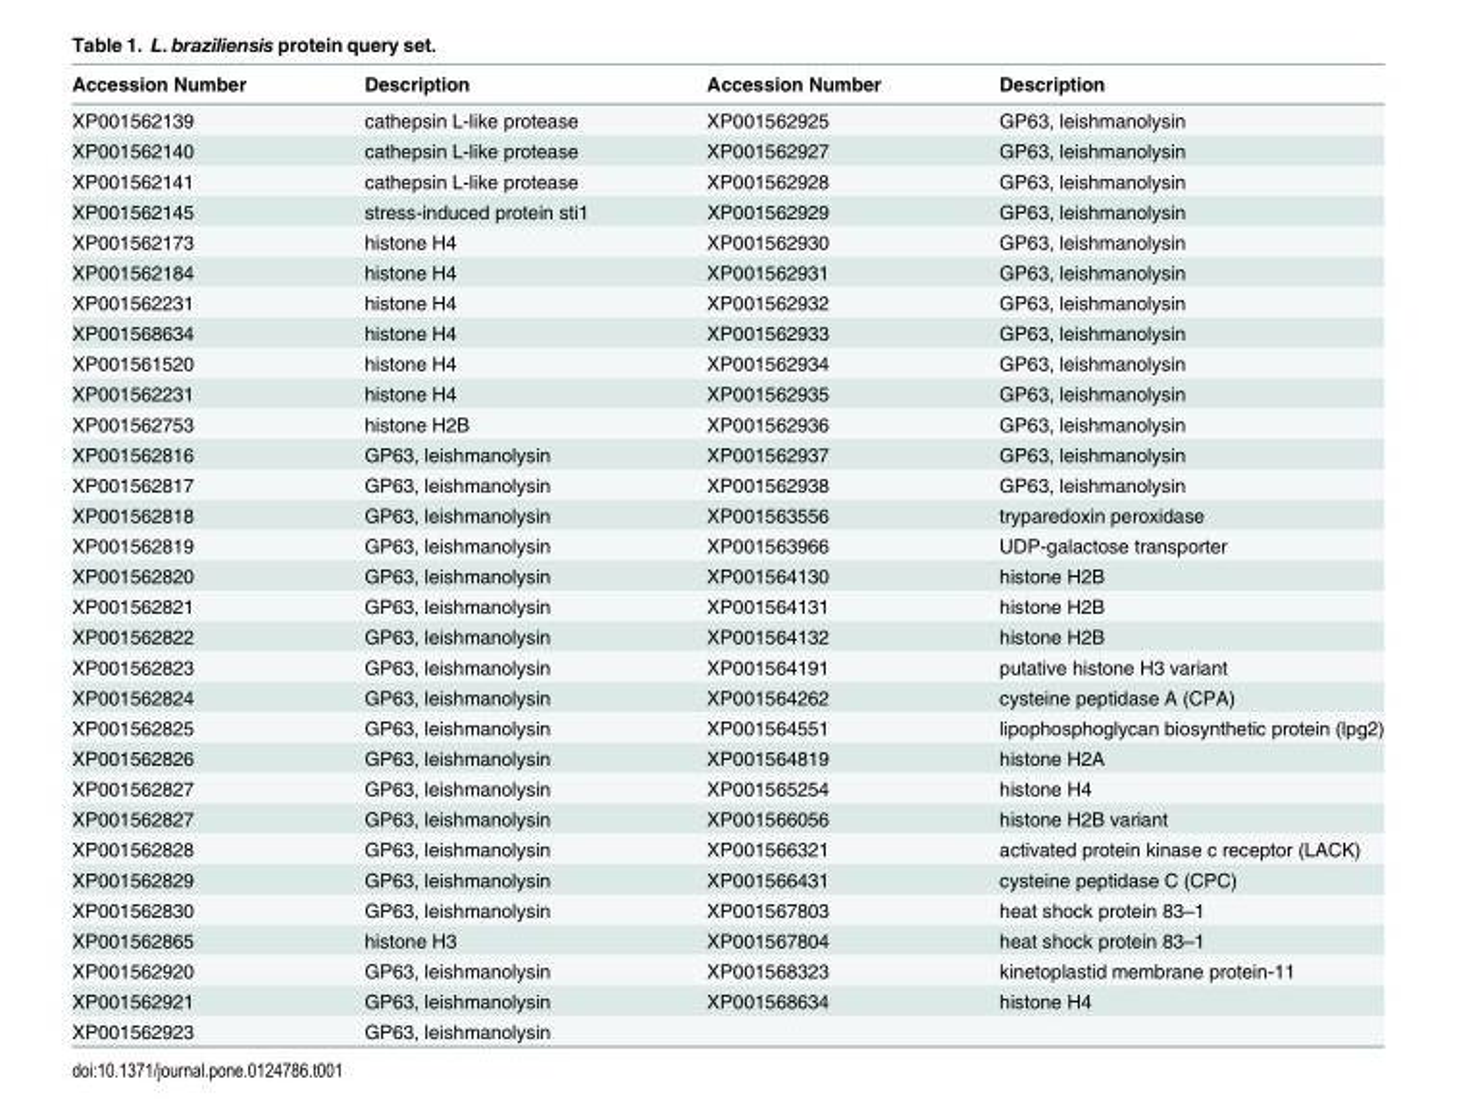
<table><thead><tr><td>Accession Number</td><td>Description</td><td>Accession Number</td><td>Description</td></tr></thead><tbody><tr><td>XP001562139</td><td>cathepsin L-like protease</td><td>XP001562925</td><td>GP63, leishmanolysin</td></tr><tr><td>XP001562140</td><td>cathepsin L-like protease</td><td>XP001562927</td><td>GP63, leishmanolysin</td></tr><tr><td>XP001562141</td><td>cathepsin L-like protease</td><td>XP001562928</td><td>GP63, leishmanolysin</td></tr><tr><td>XP001562145</td><td>stress-induced protein sti1</td><td>XP001562929</td><td>GP63, leishmanolysin</td></tr><tr><td>XP001562173</td><td>histone H4</td><td>XP001562930</td><td>GP63, leishmanolysin</td></tr><tr><td>XP001562184</td><td>histone H4</td><td>XP001562931</td><td>GP63, leishmanolysin</td></tr><tr><td>XP001562231</td><td>histone H4</td><td>XP001562932</td><td>GP63, leishmanolysin</td></tr><tr><td>XP001568634</td><td>histone H4</td><td>XP001562933</td><td>GP63, leishmanolysin</td></tr><tr><td>XP001561520</td><td>histone H4</td><td>XP001562934</td><td>GP63, leishmanolysin</td></tr><tr><td>XP001562231</td><td>histone H4</td><td>XP001562935</td><td>GP63, leishmanolysin</td></tr><tr><td>XP001562753</td><td>histone H2B</td><td>XP001562936</td><td>GP63, leishmanolysin</td></tr><tr><td>XP001562816</td><td>GP63, leishmanolysin</td><td>XP001562937</td><td>GP63, leishmanolysin</td></tr><tr><td>XP001562817</td><td>GP63, leishmanolysin</td><td>XP001562938</td><td>GP63, leishmanolysin</td></tr><tr><td>XP001562818</td><td>GP63, leishmanolysin</td><td>XP001563556</td><td>tryparedoxin peroxidase</td></tr><tr><td>XP001562819</td><td>GP63, leishmanolysin</td><td>XP001563966</td><td>UDP-galactose transporter</td></tr><tr><td>XP001562820</td><td>GP63, leishmanolysin</td><td>XP001564130</td><td>histone H2B</td></tr><tr><td>XP001562821</td><td>GP63, leishmanolysin</td><td>XP001564131</td><td>histone H2B</td></tr><tr><td>XP001562822</td><td>GP63, leishmanolysin</td><td>XP001564132</td><td>histone H2B</td></tr><tr><td>XP001562823</td><td>GP63, leishmanolysin</td><td>XP001564191</td><td>putative histone H3 variant</td></tr><tr><td>XP001562824</td><td>GP63, leishmanolysin</td><td>XP001564262</td><td>cysteine peptidase A (CPA)</td></tr><tr><td>XP001562825</td><td>GP63, leishmanolysin</td><td>XP001564551</td><td>lipophosphoglycan biosynthetic protein (lpg2)</td></tr><tr><td>XP001562826</td><td>GP63, leishmanolysin</td><td>XP001564819</td><td>histone H2A</td></tr><tr><td>XP001562827</td><td>GP63, leishmanolysin</td><td>XP001565254</td><td>histone H4</td></tr><tr><td>XP001562827</td><td>GP63, leishmanolysin</td><td>XP001566056</td><td>histone H2B variant</td></tr><tr><td>XP001562828</td><td>GP63, leishmanolysin</td><td>XP001566321</td><td>activated protein kinase c receptor (LACK)</td></tr><tr><td>XP001562829</td><td>GP63, leishmanolysin</td><td>XP001566431</td><td>cysteine peptidase C (CPC)</td></tr><tr><td>XP001562830</td><td>GP63, leishmanolysin</td><td>XP001567803</td><td>heat shock protein 83–1</td></tr><tr><td>XP001562865</td><td>histone H3</td><td>XP001567804</td><td>heat shock protein 83–1</td></tr><tr><td>XP001562920</td><td>GP63, leishmanolysin</td><td>XP001568323</td><td>kinetoplastid membrane protein-11</td></tr><tr><td>XP001562921</td><td>GP63, leishmanolysin</td><td>XP001568634</td><td>histone H4</td></tr><tr><td>XP001562923</td><td>GP63, leishmanolysin</td><td></td><td></td></tr></tbody></table>